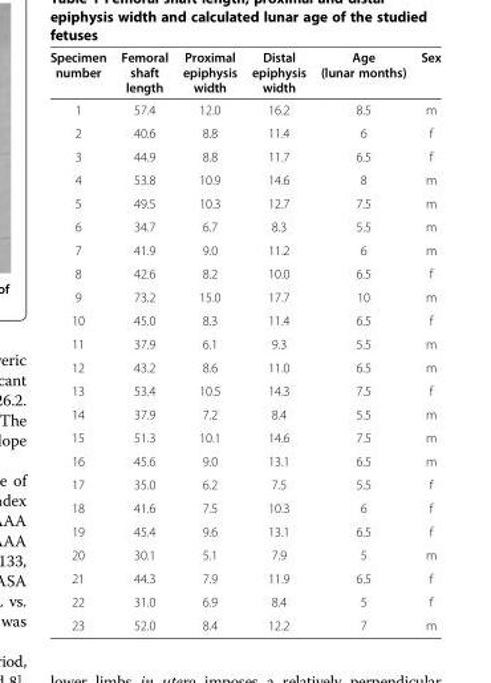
<table><thead><tr><td>Specimen number</td><td>Femoral shaft length</td><td>Proximal epiphysis width</td><td>Distal epiphysis width</td><td>Age (lunar months)</td><td>Sex</td></tr></thead><tbody><tr><td>1</td><td>57.4</td><td>12.0</td><td>16.2</td><td>8.5</td><td>m</td></tr><tr><td>2</td><td>40.6</td><td>8.8</td><td>11.4</td><td>6</td><td>f</td></tr><tr><td>3</td><td>44.9</td><td>8.8</td><td>11.7</td><td>6.5</td><td>f</td></tr><tr><td>4</td><td>53.8</td><td>10.9</td><td>14.6</td><td>8</td><td>m</td></tr><tr><td>5</td><td>49.5</td><td>10.3</td><td>12.7</td><td>7.5</td><td>m</td></tr><tr><td>6</td><td>34.7</td><td>6.7</td><td>8.3</td><td>5.5</td><td>m</td></tr><tr><td>7</td><td>41.9</td><td>9.0</td><td>11.2</td><td>6</td><td>m</td></tr><tr><td>8</td><td>42.6</td><td>8.2</td><td>10.0</td><td>6.5</td><td>f</td></tr><tr><td>9</td><td>73.2</td><td>15.0</td><td>17.7</td><td>10</td><td>m</td></tr><tr><td>10</td><td>45.0</td><td>8.3</td><td>11.4</td><td>6.5</td><td>f</td></tr><tr><td>11</td><td>37.9</td><td>6.1</td><td>9.3</td><td>5.5</td><td>m</td></tr><tr><td>12</td><td>43.2</td><td>8.6</td><td>11.0</td><td>6.5</td><td>m</td></tr><tr><td>13</td><td>53.4</td><td>10.5</td><td>14.3</td><td>7.5</td><td>f</td></tr><tr><td>14</td><td>37.9</td><td>7.2</td><td>8.4</td><td>5.5</td><td>m</td></tr><tr><td>15</td><td>51.3</td><td>10.1</td><td>14.6</td><td>7.5</td><td>m</td></tr><tr><td>16</td><td>45.6</td><td>9.0</td><td>13.1</td><td>6.5</td><td>m</td></tr><tr><td>17</td><td>35.0</td><td>6.2</td><td>7.5</td><td>5.5</td><td>f</td></tr><tr><td>18</td><td>41.6</td><td>7.5</td><td>10.3</td><td>6</td><td>f</td></tr><tr><td>19</td><td>45.4</td><td>9.6</td><td>13.1</td><td>6.5</td><td>f</td></tr><tr><td>20</td><td>30.1</td><td>5.1</td><td>7.9</td><td>5</td><td>m</td></tr><tr><td>21</td><td>44.3</td><td>7.9</td><td>11.9</td><td>6.5</td><td>f</td></tr><tr><td>22</td><td>31.0</td><td>6.9</td><td>8.4</td><td>5</td><td>f</td></tr><tr><td>23</td><td>52.0</td><td>8.4</td><td>12.2</td><td>7</td><td>m</td></tr></tbody></table>